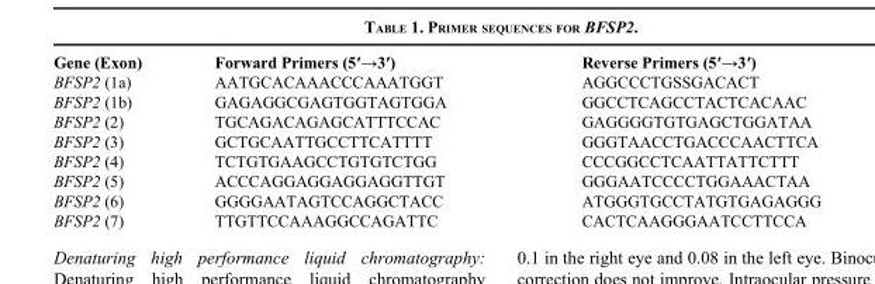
<table><thead><tr><td>Gene (Exon)</td><td>Forward Primers (5′→3′)</td><td>Reverse Primers (5′→3′)</td></tr></thead><tbody><tr><td>BFSP2 (1a)</td><td>AATGCACAAACCCAAATGGT</td><td>AGGCCCTGSSGACACT</td></tr><tr><td>BFSP2 (1b)</td><td>GAGAGGCGAGTGGTAGTGGA</td><td>GGCCTCAGCCTACTCACAAC</td></tr><tr><td>BFSP2 (2)</td><td>TGCAGACAGAGCATTTCCAC</td><td>GAGGGGTGTGAGCTGGATAA</td></tr><tr><td>BFSP2 (3)</td><td>GCTGCAATTGCCTTCATTTT</td><td>GGGTAACCTGACCCAACTTCA</td></tr><tr><td>BFSP2 (4)</td><td>TCTGTGAAGCCTGTGTCTGG</td><td>CCCGGCCTCAATTATTCTTT</td></tr><tr><td>BFSP2 (5)</td><td>ACCCAGGAGGAGGAGGTTGT</td><td>GGGAATCCCCTGGAAACTAA</td></tr><tr><td>BFSP2 (6)</td><td>GGGGAATAGTCCAGGCTACC</td><td>ATGGGTGCCTATGTGAGAGGG</td></tr><tr><td>BFSP2 (7)</td><td>TTGTTCCAAAGGCCAGATTC</td><td>CACTCAAGGGAATCCTTCCA</td></tr></tbody></table>